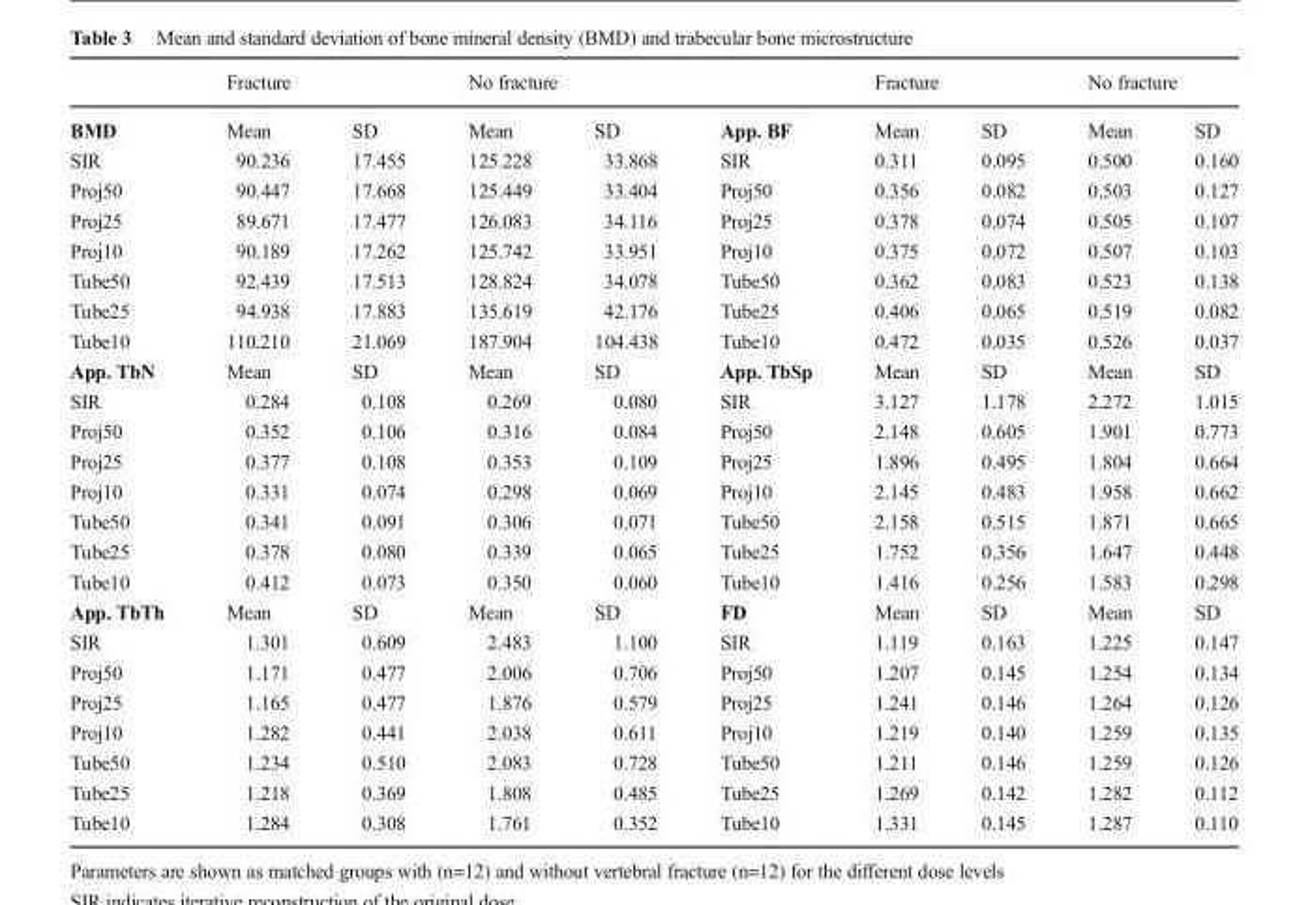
<table><thead><tr><td rowspan="2">BMD</td><td colspan="2">Fracture</td><td colspan="2">No fracture</td><td rowspan="2">App. BF</td><td colspan="2">Fracture</td><td colspan="2">No fracture</td></tr><tr><td>Mean</td><td>SD</td><td>Mean</td><td>SD</td><td>Mean</td><td>SD</td><td>Mean</td><td>SD</td></tr></thead><tbody><tr><td>SIR</td><td>90.236</td><td>17.455</td><td>125.228</td><td>33.868</td><td>SIR</td><td>0.311</td><td>0.095</td><td>0.500</td><td>0.160</td></tr><tr><td>Proj50</td><td>90.447</td><td>17.668</td><td>125.449</td><td>33.404</td><td>Proj50</td><td>0.356</td><td>0.082</td><td>0.503</td><td>0.127</td></tr><tr><td>Proj25</td><td>89.671</td><td>17.477</td><td>126.083</td><td>34.116</td><td>Proj25</td><td>0.378</td><td>0.074</td><td>0.505</td><td>0.107</td></tr><tr><td>Proj10</td><td>90.189</td><td>17.262</td><td>125.742</td><td>33.951</td><td>Proj10</td><td>0.375</td><td>0.072</td><td>0.507</td><td>0.103</td></tr><tr><td>Tube50</td><td>92.439</td><td>17.513</td><td>128.824</td><td>34.078</td><td>Tube50</td><td>0.362</td><td>0.083</td><td>0.523</td><td>0.138</td></tr><tr><td>Tube25</td><td>94.938</td><td>17.883</td><td>135.619</td><td>42.176</td><td>Tube25</td><td>0.406</td><td>0.065</td><td>0.519</td><td>0.082</td></tr><tr><td>Tube10</td><td>110.210</td><td>21.069</td><td>187.904</td><td>104.438</td><td>Tube10</td><td>0.472</td><td>0.035</td><td>0.526</td><td>0.037</td></tr><tr><td>App. TbN</td><td>Mean</td><td>SD</td><td>Mean</td><td>SD</td><td>App. TbSp</td><td>Mean</td><td>SD</td><td>Mean</td><td>SD</td></tr><tr><td>SIR</td><td>0.284</td><td>0.108</td><td>0.269</td><td>0.080</td><td>SIR</td><td>3.127</td><td>1.178</td><td>2.272</td><td>1.015</td></tr><tr><td>Proj50</td><td>0.352</td><td>0.106</td><td>0.316</td><td>0.084</td><td>Proj50</td><td>2.148</td><td>0.605</td><td>1.901</td><td>0.773</td></tr><tr><td>Proj25</td><td>0.377</td><td>0.108</td><td>0.353</td><td>0.109</td><td>Proj25</td><td>1.896</td><td>0.495</td><td>1.804</td><td>0.664</td></tr><tr><td>Proj10</td><td>0.331</td><td>0.074</td><td>0.298</td><td>0.069</td><td>Proj10</td><td>2.145</td><td>0.483</td><td>1.958</td><td>0.662</td></tr><tr><td>Tube50</td><td>0.341</td><td>0.091</td><td>0.306</td><td>0.071</td><td>Tube50</td><td>2.158</td><td>0.515</td><td>1.871</td><td>0.665</td></tr><tr><td>Tube25</td><td>0.378</td><td>0.080</td><td>0.339</td><td>0.065</td><td>Tube25</td><td>1.752</td><td>0.356</td><td>1.647</td><td>0.448</td></tr><tr><td>Tube10</td><td>0.412</td><td>0.073</td><td>0.350</td><td>0.060</td><td>Tube10</td><td>1.416</td><td>0.256</td><td>1.583</td><td>0.298</td></tr><tr><td>App. TbTh</td><td>Mean</td><td>SD</td><td>Mean</td><td>SD</td><td>FD</td><td>Mean</td><td>SD</td><td>Mean</td><td>SD</td></tr><tr><td>SIR</td><td>1.301</td><td>0.609</td><td>2.483</td><td>1.100</td><td>SIR</td><td>1.119</td><td>0.163</td><td>1.225</td><td>0.147</td></tr><tr><td>Proj50</td><td>1.171</td><td>0.477</td><td>2.006</td><td>0.706</td><td>Proj50</td><td>1.207</td><td>0.145</td><td>1.254</td><td>0.134</td></tr><tr><td>Proj25</td><td>1.165</td><td>0.477</td><td>1.876</td><td>0.579</td><td>Proj25</td><td>1.241</td><td>0.146</td><td>1.264</td><td>0.126</td></tr><tr><td>Proj10</td><td>1.282</td><td>0.441</td><td>2.038</td><td>0.611</td><td>Proj10</td><td>1.219</td><td>0.140</td><td>1.259</td><td>0.135</td></tr><tr><td>Tube50</td><td>1.234</td><td>0.510</td><td>2.083</td><td>0.728</td><td>Tube50</td><td>1.211</td><td>0.146</td><td>1.259</td><td>0.126</td></tr><tr><td>Tube25</td><td>1.218</td><td>0.369</td><td>1.808</td><td>0.485</td><td>Tube25</td><td>1.269</td><td>0.142</td><td>1.282</td><td>0.112</td></tr><tr><td>Tube10</td><td>1.284</td><td>0.308</td><td>1.761</td><td>0.352</td><td>Tube10</td><td>1.331</td><td>0.145</td><td>1.287</td><td>0.110</td></tr></tbody></table>